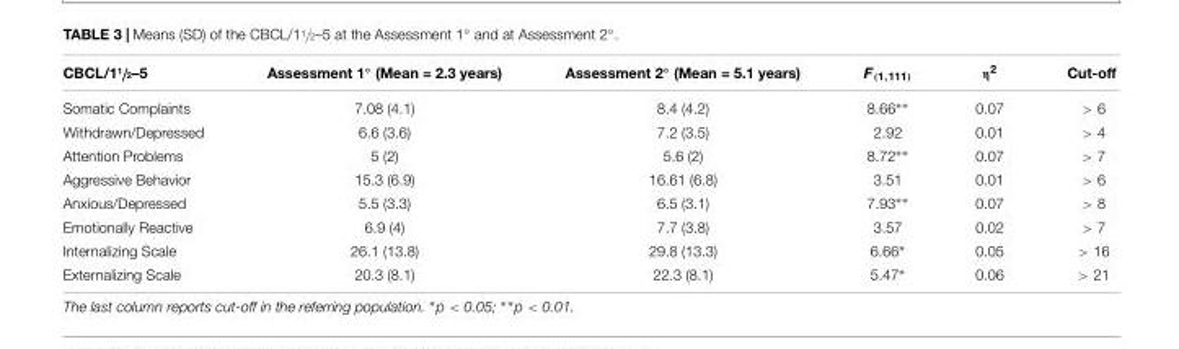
<table><thead><tr><td>CBCL/11/2–5</td><td>Assessment 1◦ (Mean = 2.3 years)</td><td>Assessment 2◦ (Mean = 5.1 years)</td><td>F<sub>(1,111)</sub></td><td>η<sup>2</sup></td><td>Cut-off</td></tr></thead><tbody><tr><td>Somatic Complaints</td><td>7.08 (4.1)</td><td>8.4 (4.2)</td><td>8.66∗∗</td><td>0.07</td><td>&gt; 6</td></tr><tr><td>Withdrawn/Depressed</td><td>6.6 (3.6)</td><td>7.2 (3.5)</td><td>2.92</td><td>0.01</td><td>&gt; 4</td></tr><tr><td>Attention Problems</td><td>5 (2)</td><td>5.6 (2)</td><td>8.72∗∗</td><td>0.07</td><td>&gt; 7</td></tr><tr><td>Aggressive Behavior</td><td>15.3 (6.9)</td><td>16.61 (6.8)</td><td>3.51</td><td>0.01</td><td>&gt; 6</td></tr><tr><td>Anxious/Depressed</td><td>5.5 (3.3)</td><td>6.5 (3.1)</td><td>7.93∗∗</td><td>0.07</td><td>&gt; 8</td></tr><tr><td>Emotionally Reactive</td><td>6.9 (4)</td><td>7.7 (3.8)</td><td>3.57</td><td>0.02</td><td>&gt; 7</td></tr><tr><td>Internalizing Scale</td><td>26.1 (13.8)</td><td>29.8 (13.3)</td><td>6.66∗</td><td>0.05</td><td>&gt; 16</td></tr><tr><td>Externalizing Scale</td><td>20.3 (8.1)</td><td>22.3 (8.1)</td><td>5.47∗</td><td>0.06</td><td>&gt; 21</td></tr></tbody></table>